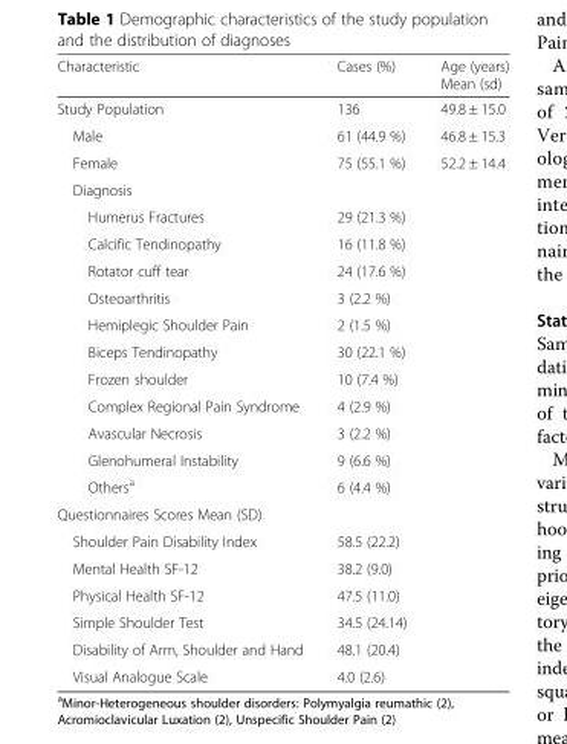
<table><thead><tr><td>Characteristic</td><td>Cases (%)</td><td>Age (years) Mean (sd)</td></tr></thead><tbody><tr><td>Study Population</td><td>136</td><td>49.8 ± 15.0</td></tr><tr><td>Male</td><td>61 (44.9 %)</td><td>46.8 ± 15.3</td></tr><tr><td>Female</td><td>75 (55.1 %)</td><td>52.2 ± 14.4</td></tr><tr><td colspan="3">Diagnosis</td></tr><tr><td>Humerus Fractures</td><td>29 (21.3 %)</td><td></td></tr><tr><td>Calcific Tendinopathy</td><td>16 (11.8 %)</td><td></td></tr><tr><td>Rotator cuff tear</td><td>24 (17.6 %)</td><td></td></tr><tr><td>Osteoarthritis</td><td>3 (2.2 %)</td><td></td></tr><tr><td>Hemiplegic Shoulder Pain</td><td>2 (1.5 %)</td><td></td></tr><tr><td>Biceps Tendinopathy</td><td>30 (22.1 %)</td><td></td></tr><tr><td>Frozen shoulder</td><td>10 (7.4 %)</td><td></td></tr><tr><td>Complex Regional Pain Syndrome</td><td>4 (2.9 %)</td><td></td></tr><tr><td>Avascular Necrosis</td><td>3 (2.2 %)</td><td></td></tr><tr><td>Glenohumeral Instability</td><td>9 (6.6 %)</td><td></td></tr><tr><td>Others<sup>a</sup></td><td>6 (4.4 %)</td><td></td></tr><tr><td colspan="3">Questionnaires Scores Mean (SD)</td></tr><tr><td>Shoulder Pain Disability Index</td><td>58.5 (22.2)</td><td></td></tr><tr><td>Mental Health SF-12</td><td>38.2 (9.0)</td><td></td></tr><tr><td>Physical Health SF-12</td><td>47.5 (11.0)</td><td></td></tr><tr><td>Simple Shoulder Test</td><td>34.5 (24.14)</td><td></td></tr><tr><td>Disability of Arm, Shoulder and Hand</td><td>48.1 (20.4)</td><td></td></tr><tr><td>Visual Analogue Scale</td><td>4.0 (2.6)</td><td></td></tr></tbody></table>